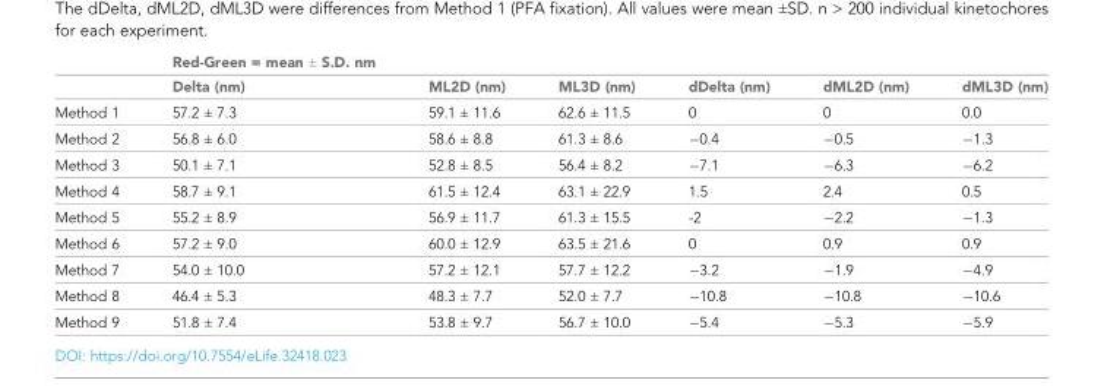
<table><thead><tr><td rowspan="2"></td><td rowspan="2">Red-Green = mean ± S.D. nm Delta (nm)</td><td rowspan="2">ML2D (nm)</td><td rowspan="2">ML3D (nm)</td><td rowspan="2">dDelta (nm)</td><td rowspan="2">dML2D (nm)</td><td rowspan="2">dML3D (nm)</td></tr><tr></tr></thead><tbody><tr><td>Method 1</td><td>57.2 ± 7.3</td><td>59.1 ± 11.6</td><td>62.6 ± 11.5</td><td>0</td><td>0</td><td>0.0</td></tr><tr><td>Method 2</td><td>56.8 ± 6.0</td><td>58.6 ± 8.8</td><td>61.3 ± 8.6</td><td>−0.4</td><td>−0.5</td><td>−1.3</td></tr><tr><td>Method 3</td><td>50.1 ± 7.1</td><td>52.8 ± 8.5</td><td>56.4 ± 8.2</td><td>−7.1</td><td>−6.3</td><td>−6.2</td></tr><tr><td>Method 4</td><td>58.7 ± 9.1</td><td>61.5 ± 12.4</td><td>63.1 ± 22.9</td><td>1.5</td><td>2.4</td><td>0.5</td></tr><tr><td>Method 5</td><td>55.2 ± 8.9</td><td>56.9 ± 11.7</td><td>61.3 ± 15.5</td><td>-2</td><td>−2.2</td><td>−1.3</td></tr><tr><td>Method 6</td><td>57.2 ± 9.0</td><td>60.0 ± 12.9</td><td>63.5 ± 21.6</td><td>0</td><td>0.9</td><td>0.9</td></tr><tr><td>Method 7</td><td>54.0 ± 10.0</td><td>57.2 ± 12.1</td><td>57.7 ± 12.2</td><td>−3.2</td><td>−1.9</td><td>−4.9</td></tr><tr><td>Method 8</td><td>46.4 ± 5.3</td><td>48.3 ± 7.7</td><td>52.0 ± 7.7</td><td>−10.8</td><td>−10.8</td><td>−10.6</td></tr><tr><td>Method 9</td><td>51.8 ± 7.4</td><td>53.8 ± 9.7</td><td>56.7 ± 10.0</td><td>−5.4</td><td>−5.3</td><td>−5.9</td></tr></tbody></table>